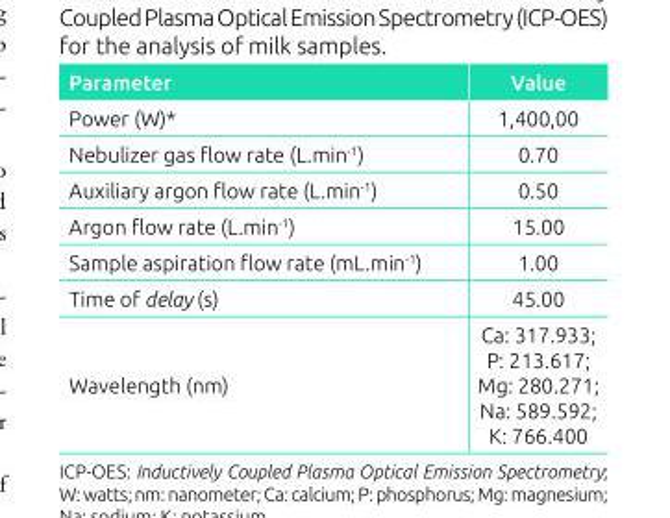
<table><thead><tr><td>Parameter</td><td>Value</td></tr></thead><tbody><tr><td>Power (W)*</td><td>1,400,00</td></tr><tr><td>Nebulizer gas flow rate (L.min<sup>-1</sup>)</td><td>0.70</td></tr><tr><td>Auxiliary argon flow rate (L.min<sup>-1</sup>)</td><td>0.50</td></tr><tr><td>Argon flow rate (L.min<sup>-1</sup>)</td><td>15.00</td></tr><tr><td>Sample aspiration flow rate (mL.min<sup>-1</sup>)</td><td>1.00</td></tr><tr><td>Time of delay (s)</td><td>45.00</td></tr><tr><td>Wavelength (nm)</td><td>Ca: 317.933; P: 213.617; Mg: 280.271; Na: 589.592; K: 766.400</td></tr></tbody></table>